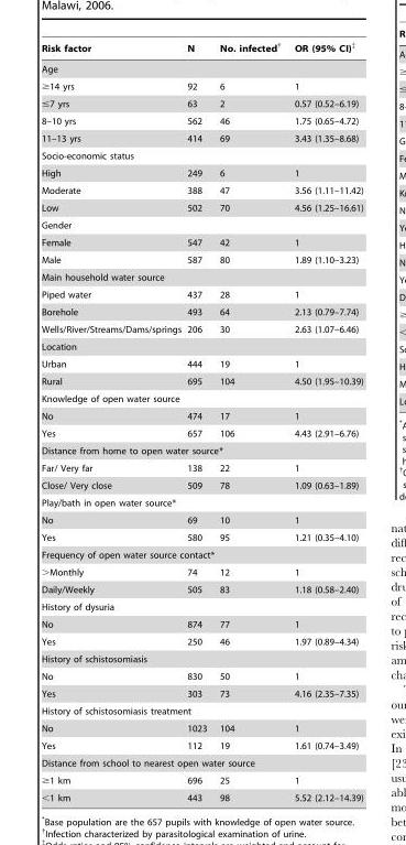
<table><thead><tr><td>Risk factor</td><td>N</td><td>No. infected†</td><td>OR (95% CI)‡</td></tr></thead><tbody><tr><td colspan="4">Age</td></tr><tr><td>≥14 yrs</td><td>92</td><td>6</td><td>1</td></tr><tr><td>≤7 yrs</td><td>63</td><td>2</td><td>0.57 (0.52–6.19)</td></tr><tr><td>8–10 yrs</td><td>562</td><td>46</td><td>1.75 (0.65–4.72)</td></tr><tr><td>11–13 yrs</td><td>414</td><td>69</td><td>3.43 (1.35–8.68)</td></tr><tr><td colspan="4">Socio-economic status</td></tr><tr><td>High</td><td>249</td><td>6</td><td>1</td></tr><tr><td>Moderate</td><td>388</td><td>47</td><td>3.56 (1.11–11.42)</td></tr><tr><td>Low</td><td>502</td><td>70</td><td>4.56 (1.25–16.61)</td></tr><tr><td colspan="4">Gender</td></tr><tr><td>Female</td><td>547</td><td>42</td><td>1</td></tr><tr><td>Male</td><td>587</td><td>80</td><td>1.89 (1.10–3.23)</td></tr><tr><td colspan="4">Main household water source</td></tr><tr><td>Piped water</td><td>437</td><td>28</td><td>1</td></tr><tr><td>Borehole</td><td>493</td><td>64</td><td>2.13 (0.79–7.74)</td></tr><tr><td>Wells/River/Streams/Dams/springs</td><td>206</td><td>30</td><td>2.63 (1.07–6.46)</td></tr><tr><td colspan="4">Location</td></tr><tr><td>Urban</td><td>444</td><td>19</td><td>1</td></tr><tr><td>Rural</td><td>695</td><td>104</td><td>4.50 (1.95–10.39)</td></tr><tr><td colspan="4">Knowledge of open water source</td></tr><tr><td>No</td><td>474</td><td>17</td><td>1</td></tr><tr><td>Yes</td><td>657</td><td>106</td><td>4.43 (2.91–6.76)</td></tr><tr><td colspan="4">Distance from home to open water source*</td></tr><tr><td>Far/ Very far</td><td>138</td><td>22</td><td>1</td></tr><tr><td>Close/ Very close</td><td>509</td><td>78</td><td>1.09 (0.63–1.89)</td></tr><tr><td colspan="4">Play/bath in open water source*</td></tr><tr><td>No</td><td>69</td><td>10</td><td>1</td></tr><tr><td>Yes</td><td>580</td><td>95</td><td>1.21 (0.35–4.10)</td></tr><tr><td colspan="4">Frequency of open water source contact*</td></tr><tr><td>&gt;Monthly</td><td>74</td><td>12</td><td>1</td></tr><tr><td>Daily/Weekly</td><td>505</td><td>83</td><td>1.18 (0.58–2.40)</td></tr><tr><td colspan="4">History of dysuria</td></tr><tr><td>No</td><td>874</td><td>77</td><td>1</td></tr><tr><td>Yes</td><td>250</td><td>46</td><td>1.97 (0.89–4.34)</td></tr><tr><td colspan="4">History of schistosomiasis</td></tr><tr><td>No</td><td>830</td><td>50</td><td>1</td></tr><tr><td>Yes</td><td>303</td><td>73</td><td>4.16 (2.35–7.35)</td></tr><tr><td colspan="4">History of schistosomiasis treatment</td></tr><tr><td>No</td><td>1023</td><td>104</td><td>1</td></tr><tr><td>Yes</td><td>112</td><td>19</td><td>1.61 (0.74–3.49)</td></tr><tr><td colspan="4">Distance from school to nearest open water source</td></tr><tr><td>≥1 km</td><td>696</td><td>25</td><td>1</td></tr><tr><td>&lt;1 km</td><td>443</td><td>98</td><td>5.52 (2.12–14.39)</td></tr></tbody></table>